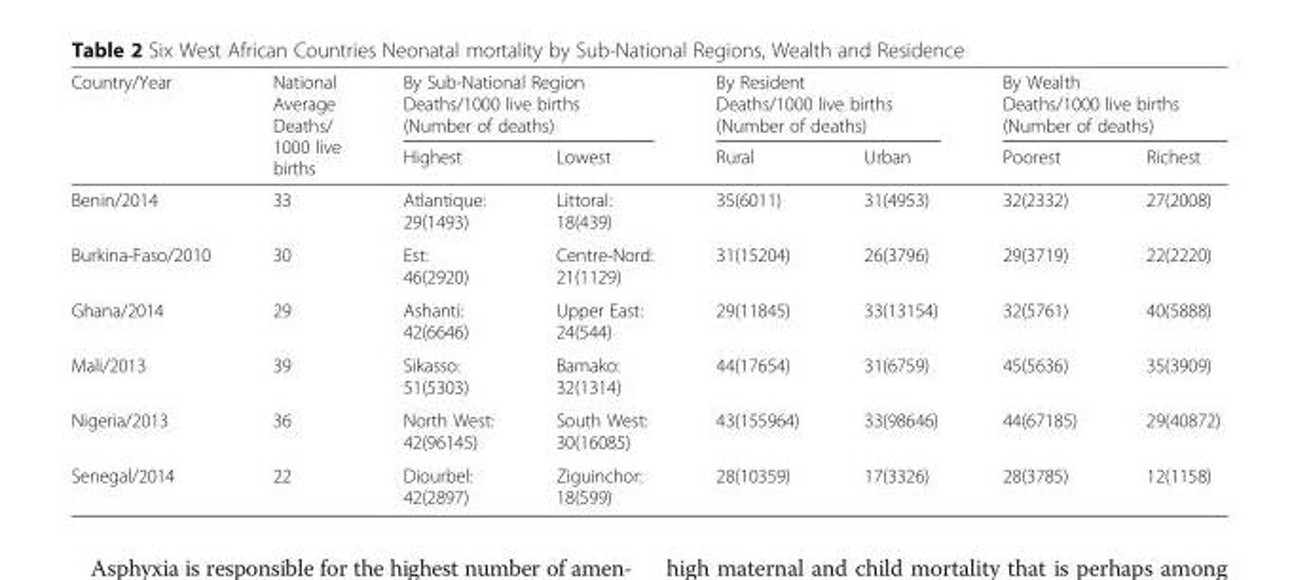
<table><thead><tr><td rowspan="2">Country/Year</td><td rowspan="2">National Average Deaths/ 1000 live births</td><td colspan="2">By Sub-National Region Deaths/1000 live births (Number of deaths)</td><td colspan="2">By Resident Deaths/1000 live births (Number of deaths)</td><td colspan="2">By Wealth Deaths/1000 live births (Number of deaths)</td></tr><tr><td>Highest</td><td>Lowest</td><td>Rural</td><td>Urban</td><td>Poorest</td><td>Richest</td></tr></thead><tbody><tr><td>Benin/2014</td><td>33</td><td>Atlantique: 29(1493)</td><td>Littoral: 18(439)</td><td>35(6011)</td><td>31(4953)</td><td>32(2332)</td><td>27(2008)</td></tr><tr><td>Burkina-Faso/2010</td><td>30</td><td>Est: 46(2920)</td><td>Centre-Nord: 21(1129)</td><td>31(15204)</td><td>26(3796)</td><td>29(3719)</td><td>22(2220)</td></tr><tr><td>Ghana/2014</td><td>29</td><td>Ashanti: 42(6646)</td><td>Upper East: 24(544)</td><td>29(11845)</td><td>33(13154)</td><td>32(5761)</td><td>40(5888)</td></tr><tr><td>Mali/2013</td><td>39</td><td>Sikasso: 51(5303)</td><td>Bamako: 32(1314)</td><td>44(17654)</td><td>31(6759)</td><td>45(5636)</td><td>35(3909)</td></tr><tr><td>Nigeria/2013</td><td>36</td><td>North West: 42(96145)</td><td>South West: 30(16085)</td><td>43(155964)</td><td>33(98646)</td><td>44(67185)</td><td>29(40872)</td></tr><tr><td>Senegal/2014</td><td>22</td><td>Diourbel: 42(2897)</td><td>Ziguinchor: 18(599)</td><td>28(10359)</td><td>17(3326)</td><td>28(3785)</td><td>12(1158)</td></tr></tbody></table>